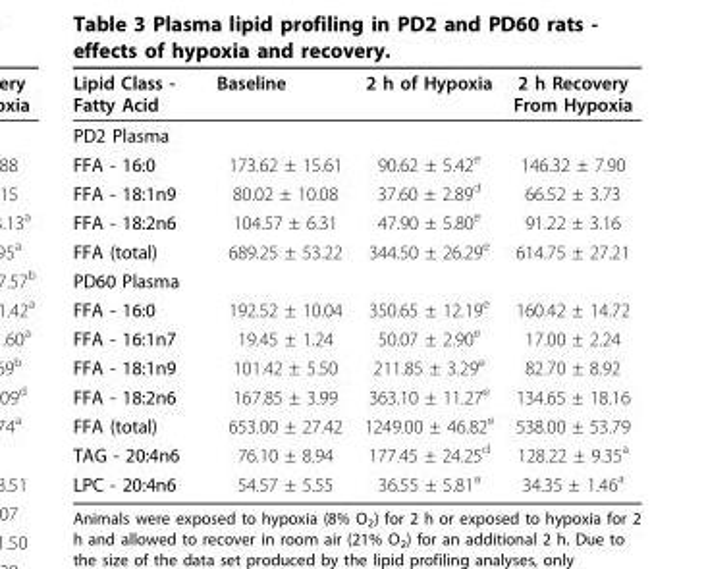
<table><thead><tr><td>Lipid Class - Fatty Acid</td><td>Baseline</td><td>2 h of Hypoxia</td><td>2 h Recovery From Hypoxia</td></tr></thead><tbody><tr><td colspan="4">PD2 Plasma</td></tr><tr><td>FFA - 16:0</td><td>173.62 ± 15.61</td><td>90.62 ± 5.42<sup>e</sup></td><td>146.32 ± 7.90</td></tr><tr><td>FFA - 18:1n9</td><td>80.02 ± 10.08</td><td>37.60 ± 2.89<sup>d</sup></td><td>66.52 ± 3.73</td></tr><tr><td>FFA - 18:2n6</td><td>104.57 ± 6.31</td><td>47.90 ± 5.80<sup>e</sup></td><td>91.22 ± 3.16</td></tr><tr><td>FFA (total)</td><td>689.25 ± 53.22</td><td>344.50 ± 26.29<sup>e</sup></td><td>614.75 ± 27.21</td></tr><tr><td colspan="4">PD60 Plasma</td></tr><tr><td>FFA - 16:0</td><td>192.52 ± 10.04</td><td>350.65 ± 12.19<sup>e</sup></td><td>160.42 ± 14.72</td></tr><tr><td>FFA - 16:1n7</td><td>19.45 ± 1.24</td><td>50.07 ± 2.90<sup>e</sup></td><td>17.00 ± 2.24</td></tr><tr><td>FFA - 18:1n9</td><td>101.42 ± 5.50</td><td>211.85 ± 3.29<sup>e</sup></td><td>82.70 ± 8.92</td></tr><tr><td>FFA - 18:2n6</td><td>167.85 ± 3.99</td><td>363.10 ± 11.27<sup>e</sup></td><td>134.65 ± 18.16</td></tr><tr><td>FFA (total)</td><td>653.00 ± 27.42</td><td>1249.00 ± 46.82<sup>e</sup></td><td>538.00 ± 53.79</td></tr><tr><td>TAG - 20:4n6</td><td>76.10 ± 8.94</td><td>177.45 ± 24.25<sup>d</sup></td><td>128.22 ± 9.35<sup>a</sup></td></tr><tr><td>LPC - 20:4n6</td><td>54.57 ± 5.55</td><td>36.55 ± 5.81<sup>a</sup></td><td>34.35 ± 1.46<sup>a</sup></td></tr></tbody></table>